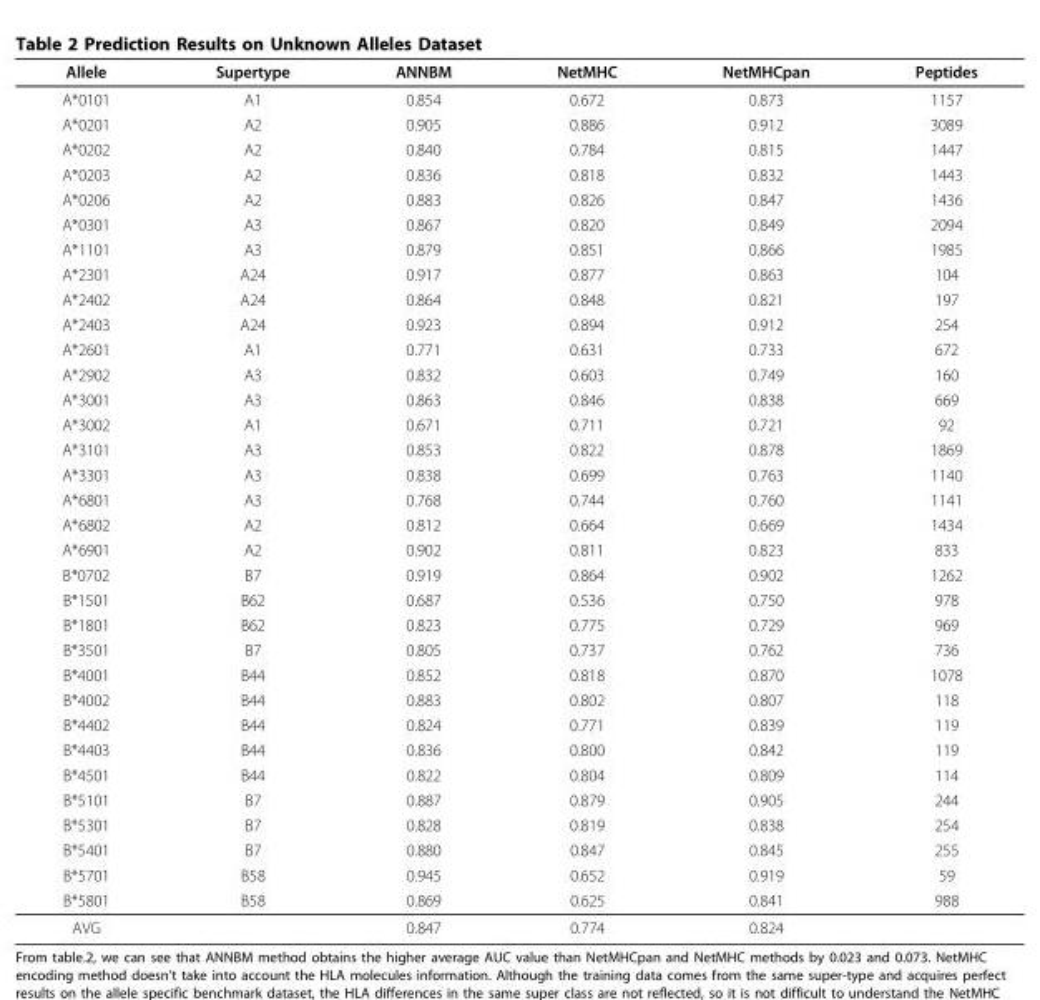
<table><thead><tr><td>Allele</td><td>Supertype</td><td>ANNBM</td><td>NetMHC</td><td>NetMHCpan</td><td>Peptides</td></tr></thead><tbody><tr><td>A*0101</td><td>A1</td><td>0.854</td><td>0.672</td><td>0.873</td><td>1157</td></tr><tr><td>A*0201</td><td>A2</td><td>0.905</td><td>0.886</td><td>0.912</td><td>3089</td></tr><tr><td>A*0202</td><td>A2</td><td>0.840</td><td>0.784</td><td>0.815</td><td>1447</td></tr><tr><td>A*0203</td><td>A2</td><td>0.836</td><td>0.818</td><td>0.832</td><td>1443</td></tr><tr><td>A*0206</td><td>A2</td><td>0.883</td><td>0.826</td><td>0.847</td><td>1436</td></tr><tr><td>A*0301</td><td>A3</td><td>0.867</td><td>0.820</td><td>0.849</td><td>2094</td></tr><tr><td>A*1101</td><td>A3</td><td>0.879</td><td>0.851</td><td>0.866</td><td>1985</td></tr><tr><td>A*2301</td><td>A24</td><td>0.917</td><td>0.877</td><td>0.863</td><td>104</td></tr><tr><td>A*2402</td><td>A24</td><td>0.864</td><td>0.848</td><td>0.821</td><td>197</td></tr><tr><td>A*2403</td><td>A24</td><td>0.923</td><td>0.894</td><td>0.912</td><td>254</td></tr><tr><td>A*2601</td><td>A1</td><td>0.771</td><td>0.631</td><td>0.733</td><td>672</td></tr><tr><td>A*2902</td><td>A3</td><td>0.832</td><td>0.603</td><td>0.749</td><td>160</td></tr><tr><td>A*3001</td><td>A3</td><td>0.863</td><td>0.846</td><td>0.838</td><td>669</td></tr><tr><td>A*3002</td><td>A1</td><td>0.671</td><td>0.711</td><td>0.721</td><td>92</td></tr><tr><td>A*3101</td><td>A3</td><td>0.853</td><td>0.822</td><td>0.878</td><td>1869</td></tr><tr><td>A*3301</td><td>A3</td><td>0.838</td><td>0.699</td><td>0.763</td><td>1140</td></tr><tr><td>A*6801</td><td>A3</td><td>0.768</td><td>0.744</td><td>0.760</td><td>1141</td></tr><tr><td>A*6802</td><td>A2</td><td>0.812</td><td>0.664</td><td>0.669</td><td>1434</td></tr><tr><td>A*6901</td><td>A2</td><td>0.902</td><td>0.811</td><td>0.823</td><td>833</td></tr><tr><td>B*0702</td><td>B7</td><td>0.919</td><td>0.864</td><td>0.902</td><td>1262</td></tr><tr><td>B*1501</td><td>B62</td><td>0.687</td><td>0.536</td><td>0.750</td><td>978</td></tr><tr><td>B*1801</td><td>B62</td><td>0.823</td><td>0.775</td><td>0.729</td><td>969</td></tr><tr><td>B*3501</td><td>B7</td><td>0.805</td><td>0.737</td><td>0.762</td><td>736</td></tr><tr><td>B*4001</td><td>B44</td><td>0.852</td><td>0.818</td><td>0.870</td><td>1078</td></tr><tr><td>B*4002</td><td>B44</td><td>0.883</td><td>0.802</td><td>0.807</td><td>118</td></tr><tr><td>B*4402</td><td>B44</td><td>0.824</td><td>0.771</td><td>0.839</td><td>119</td></tr><tr><td>B*4403</td><td>B44</td><td>0.836</td><td>0.800</td><td>0.842</td><td>119</td></tr><tr><td>B*4501</td><td>B44</td><td>0.822</td><td>0.804</td><td>0.809</td><td>114</td></tr><tr><td>B*5101</td><td>B7</td><td>0.887</td><td>0.879</td><td>0.905</td><td>244</td></tr><tr><td>B*5301</td><td>B7</td><td>0.828</td><td>0.819</td><td>0.838</td><td>254</td></tr><tr><td>B*5401</td><td>B7</td><td>0.880</td><td>0.847</td><td>0.845</td><td>255</td></tr><tr><td>B*5701</td><td>B58</td><td>0.945</td><td>0.652</td><td>0.919</td><td>59</td></tr><tr><td>B*5801</td><td>B58</td><td>0.869</td><td>0.625</td><td>0.841</td><td>988</td></tr><tr><td>AVG</td><td></td><td>0.847</td><td>0.774</td><td>0.824</td><td></td></tr></tbody></table>